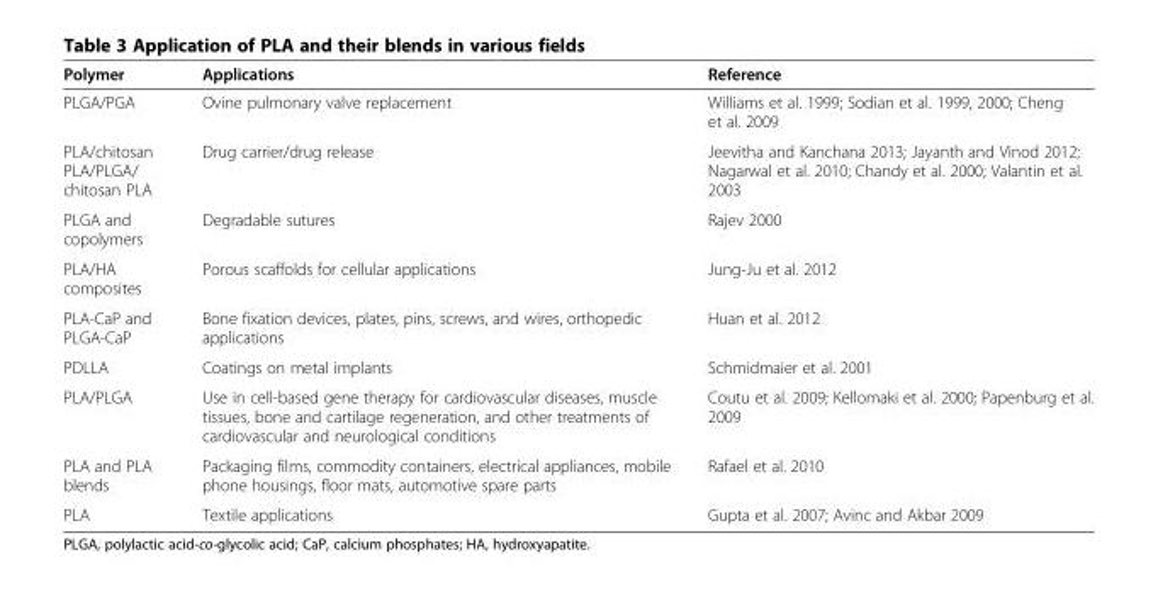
<table><thead><tr><td>Polymer</td><td>Applications</td><td>Reference</td></tr></thead><tbody><tr><td>PLGA/PGA</td><td>Ovine pulmonary valve replacement</td><td>Williams et al. 1999; Sodian et al. 1999, 2000; Cheng et al. 2009</td></tr><tr><td>PLA/chitosan PLA/PLGA/ chitosan PLA</td><td>Drug carrier/drug release</td><td>Jeevitha and Kanchana 2013; Jayanth and Vinod 2012; Nagarwal et al. 2010; Chandy et al. 2000; Valantin et al. 2003</td></tr><tr><td>PLGA and copolymers</td><td>Degradable sutures</td><td>Rajev 2000</td></tr><tr><td>PLA/HA composites</td><td>Porous scaffolds for cellular applications</td><td>Jung-Ju et al. 2012</td></tr><tr><td>PLA-CaP and PLGA-CaP</td><td>Bone fixation devices, plates, pins, screws, and wires, orthopedic applications</td><td>Huan et al. 2012</td></tr><tr><td>PDLLA</td><td>Coatings on metal implants</td><td>Schmidmaier et al. 2001</td></tr><tr><td>PLA/PLGA</td><td>Use in cell-based gene therapy for cardiovascular diseases, muscle tissues, bone and cartilage regeneration, and other treatments of cardiovascular and neurological conditions</td><td>Coutu et al. 2009; Kellomaki et al. 2000; Papenburg et al. 2009</td></tr><tr><td>PLA and PLA blends</td><td>Packaging films, commodity containers, electrical appliances, mobile phone housings, floor mats, automotive spare parts</td><td>Rafael et al. 2010</td></tr><tr><td>PLA</td><td>Textile applications</td><td>Gupta et al. 2007; Avinc and Akbar 2009</td></tr></tbody></table>